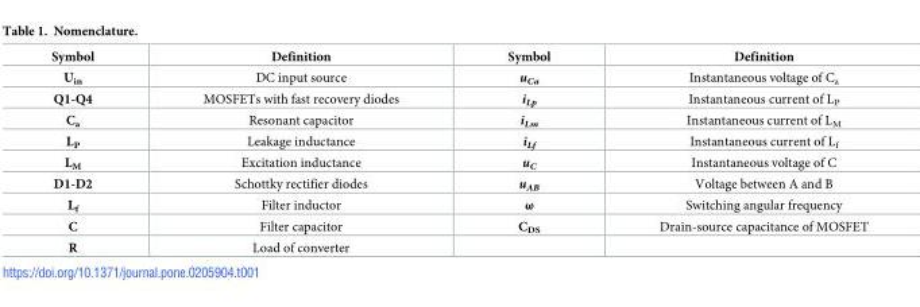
<table><thead><tr><td>Symbol</td><td>Definition</td><td>Symbol</td><td>Definition</td></tr></thead><tbody><tr><td>U<sub>in</sub></td><td>DC input source</td><td>u<sub>Ca</sub></td><td>Instantaneous voltage of C<sub>a</sub></td></tr><tr><td>Q1-Q4</td><td>MOSFETs with fast recovery diodes</td><td>i<sub>Lp</sub></td><td>Instantaneous current of L<sub>P</sub></td></tr><tr><td>C<sub>a</sub></td><td>Resonant capacitor</td><td>i<sub>Lm</sub></td><td>Instantaneous current of L<sub>M</sub></td></tr><tr><td>L<sub>P</sub></td><td>Leakage inductance</td><td>i<sub>Lf</sub></td><td>Instantaneous current of L<sub>f</sub></td></tr><tr><td>L<sub>M</sub></td><td>Excitation inductance</td><td>u<sub>C</sub></td><td>Instantaneous voltage of C</td></tr><tr><td>D1-D2</td><td>Schottky rectifier diodes</td><td>u<sub>AB</sub></td><td>Voltage between A and B</td></tr><tr><td>L<sub>f</sub></td><td>Filter inductor</td><td>ω</td><td>Switching angular frequency</td></tr><tr><td>C</td><td>Filter capacitor</td><td>C<sub>DS</sub></td><td>Drain-source capacitance of MOSFET</td></tr><tr><td>R</td><td>Load of converter</td><td></td><td></td></tr></tbody></table>